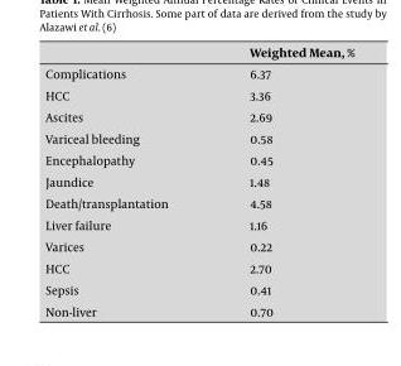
<table><thead><tr><td></td><td>Weighted Mean, %</td></tr></thead><tbody><tr><td>Complications</td><td>6.37</td></tr><tr><td>HCC</td><td>3.36</td></tr><tr><td>Ascites</td><td>2.69</td></tr><tr><td>Variceal bleeding</td><td>0.58</td></tr><tr><td>Encephalopathy</td><td>0.45</td></tr><tr><td>Jaundice</td><td>1.48</td></tr><tr><td>Death/transplantation</td><td>4.58</td></tr><tr><td>Liver failure</td><td>1.16</td></tr><tr><td>Varices</td><td>0.22</td></tr><tr><td>HCC</td><td>2.70</td></tr><tr><td>Sepsis</td><td>0.41</td></tr><tr><td>Non-liver</td><td>0.70</td></tr></tbody></table>